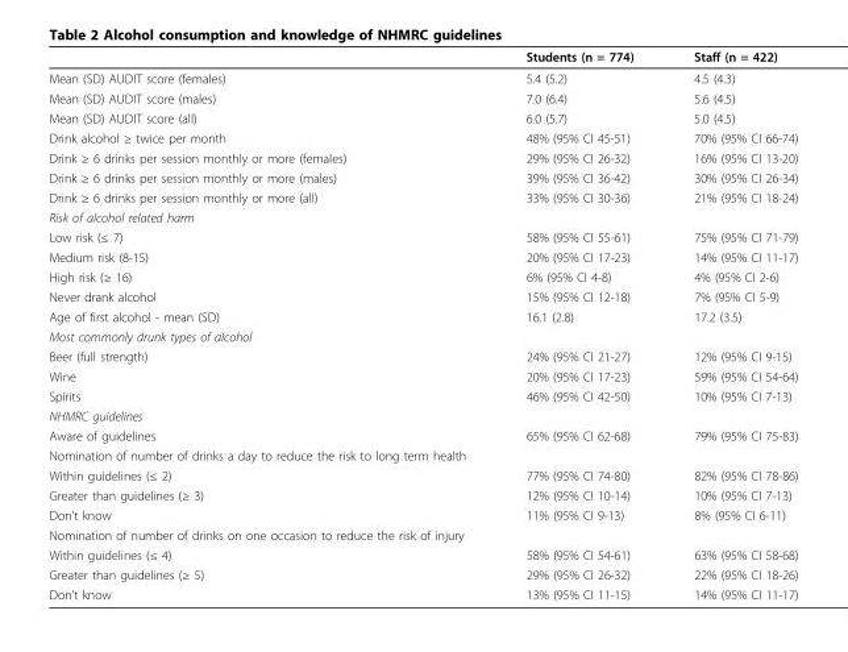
<table><thead><tr><td></td><td>Students (n = 774)</td><td>Staff (n = 422)</td></tr></thead><tbody><tr><td>Mean (SD) AUDIT score (females)</td><td>5.4 (5.2)</td><td>4.5 (4.3)</td></tr><tr><td>Mean (SD) AUDIT score (males)</td><td>7.0 (6.4)</td><td>5.6 (4.5)</td></tr><tr><td>Mean (SD) AUDIT score (all)</td><td>6.0 (5.7)</td><td>5.0 (4.5)</td></tr><tr><td>Drink alcohol ≥ twice per month</td><td>48% (95% CI 45-51)</td><td>70% (95% CI 66-74)</td></tr><tr><td>Drink ≥ 6 drinks per session monthly or more (females)</td><td>29% (95% CI 26-32)</td><td>16% (95% CI 13-20)</td></tr><tr><td>Drink ≥ 6 drinks per session monthly or more (males)</td><td>39% (95% CI 36-42)</td><td>30% (95% CI 26-34)</td></tr><tr><td>Drink ≥ 6 drinks per session monthly or more (all)</td><td>33% (95% CI 30-36)</td><td>21% (95% CI 18-24)</td></tr><tr><td colspan="3">Risk of alcohol related harm</td></tr><tr><td>Low risk (≤ 7)</td><td>58% (95% CI 55-61)</td><td>75% (95% CI 71-79)</td></tr><tr><td>Medium risk (8-15)</td><td>20% (95% CI 17-23)</td><td>14% (95% CI 11-17)</td></tr><tr><td>High risk (≥ 16)</td><td>6% (95% CI 4-8)</td><td>4% (95% CI 2-6)</td></tr><tr><td>Never drank alcohol</td><td>15% (95% CI 12-18)</td><td>7% (95% CI 5-9)</td></tr><tr><td>Age of first alcohol - mean (SD)</td><td>16.1 (2.8)</td><td>17.2 (3.5)</td></tr><tr><td colspan="3">Most commonly drunk types of alcohol</td></tr><tr><td>Beer (full strength)</td><td>24% (95% CI 21-27)</td><td>12% (95% CI 9-15)</td></tr><tr><td>Wine</td><td>20% (95% CI 17-23)</td><td>59% (95% CI 54-64)</td></tr><tr><td>Spirits</td><td>46% (95% CI 42-50)</td><td>10% (95% CI 7-13)</td></tr><tr><td colspan="3">NHMRC guidelines</td></tr><tr><td>Aware of guidelines</td><td>65% (95% CI 62-68)</td><td>79% (95% CI 75-83)</td></tr><tr><td colspan="3">Nomination of number of drinks a day to reduce the risk to long term health</td></tr><tr><td>Within guidelines (≤ 2)</td><td>77% (95% CI 74-80)</td><td>82% (95% CI 78-86)</td></tr><tr><td>Greater than guidelines (≥ 3)</td><td>12% (95% CI 10-14)</td><td>10% (95% CI 7-13)</td></tr><tr><td>Don’t know</td><td>11% (95% CI 9-13)</td><td>8% (95% CI 6-11)</td></tr><tr><td colspan="3">Nomination of number of drinks on one occasion to reduce the risk of injury</td></tr><tr><td>Within guidelines (≤ 4)</td><td>58% (95% CI 54-61)</td><td>63% (95% CI 58-68)</td></tr><tr><td>Greater than guidelines (≥ 5)</td><td>29% (95% CI 26-32)</td><td>22% (95% CI 18-26)</td></tr><tr><td>Don’t know</td><td>13% (95% CI 11-15)</td><td>14% (95% CI 11-17)</td></tr></tbody></table>